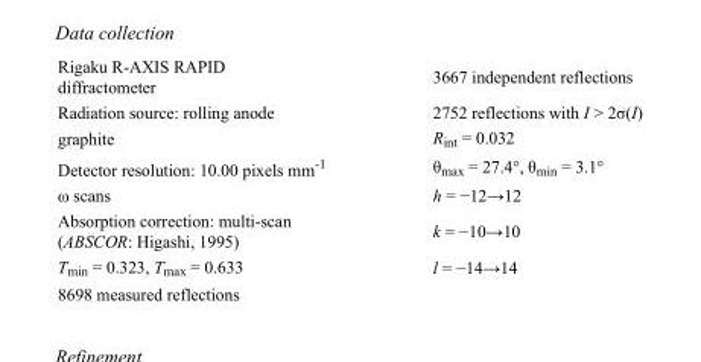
<table><tbody><tr><td>Rigaku R-AXIS RAPID diffractometer</td><td>3667 independent reflections</td></tr><tr><td>Radiation source: rolling anode</td><td>2752 reflections with I &gt; 2σ(I)</td></tr><tr><td>graphite</td><td>R<sub>int</sub> = 0.032</td></tr><tr><td>Detector resolution: 10.00 pixels mm<sup>-1</sup></td><td>θ<sub>max</sub> = 27.4°, θ<sub>min</sub> = 3.1°</td></tr><tr><td>ω scans</td><td>h = −12→12</td></tr><tr><td>Absorption correction: multi-scan (ABSCOR: Higashi, 1995)</td><td>k = −10→10</td></tr><tr><td>T<sub>min</sub> = 0.323, T<sub>max</sub> = 0.633</td><td>l = −14→14</td></tr><tr><td>8698 measured reflections</td><td></td></tr></tbody></table>